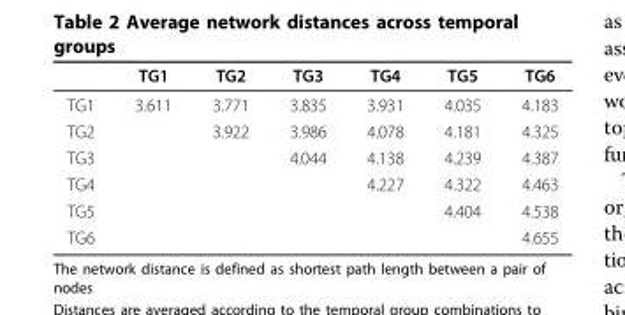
<table><thead><tr><td></td><td>TG1</td><td>TG2</td><td>TG3</td><td>TG4</td><td>TG5</td><td>TG6</td></tr></thead><tbody><tr><td>TG1</td><td>3.611</td><td>3.771</td><td>3.835</td><td>3.931</td><td>4.035</td><td>4.183</td></tr><tr><td>TG2</td><td></td><td>3.922</td><td>3.986</td><td>4.078</td><td>4.181</td><td>4.325</td></tr><tr><td>TG3</td><td></td><td></td><td>4.044</td><td>4.138</td><td>4.239</td><td>4.387</td></tr><tr><td>TG4</td><td></td><td></td><td></td><td>4.227</td><td>4.322</td><td>4.463</td></tr><tr><td>TG5</td><td></td><td></td><td></td><td></td><td>4.404</td><td>4.538</td></tr><tr><td>TG6</td><td></td><td></td><td></td><td></td><td></td><td>4.655</td></tr></tbody></table>